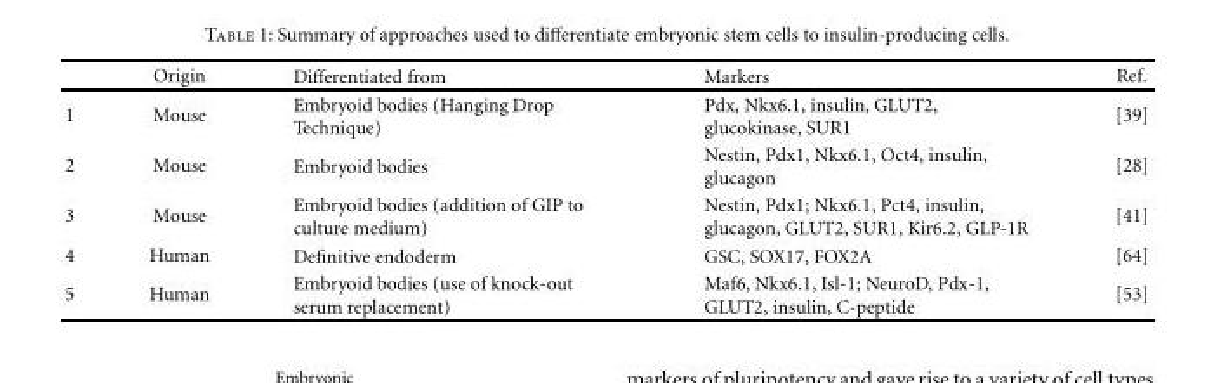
<table><thead><tr><td></td><td>Origin</td><td>Differentiated from</td><td>Markers</td><td>Ref.</td></tr></thead><tbody><tr><td>1</td><td>Mouse</td><td>Embryoid bodies (Hanging Drop Technique)</td><td>Pdx, Nkx6.1, insulin, GLUT2, glucokinase, SUR1</td><td>[39]</td></tr><tr><td>2</td><td>Mouse</td><td>Embryoid bodies</td><td>Nestin, Pdx1, Nkx6.1, Oct4, insulin, glucagon</td><td>[28]</td></tr><tr><td>3</td><td>Mouse</td><td>Embryoid bodies (addition of GIP to culture medium)</td><td>Nestin, Pdx1; Nkx6.1, Pct4, insulin, glucagon, GLUT2, SUR1, Kir6.2, GLP-1R</td><td>[41]</td></tr><tr><td>4</td><td>Human</td><td>Definitive endoderm</td><td>GSC, SOX17, FOX2A</td><td>[64]</td></tr><tr><td>5</td><td>Human</td><td>Embryoid bodies (use of knock-out serum replacement)</td><td>Maf6, Nkx6.1, Isl-1; NeuroD, Pdx-1, GLUT2, insulin, C-peptide</td><td>[53]</td></tr></tbody></table>